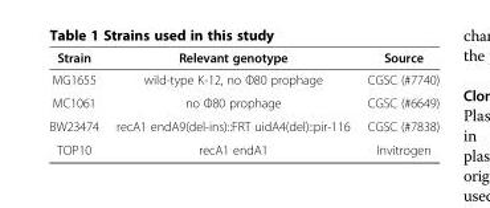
<table><thead><tr><td>Strain</td><td>Relevant genotype</td><td>Source</td></tr></thead><tbody><tr><td>MG1655</td><td>wild-type K-12, no Φ80 prophage</td><td>CGSC (#7740)</td></tr><tr><td>MC1061</td><td>no Φ80 prophage</td><td>CGSC (#6649)</td></tr><tr><td>BW23474</td><td>recA1 endA9(del-ins)::FRT uidA4(del)::pir-116</td><td>CGSC (#7838)</td></tr><tr><td>TOP10</td><td>recA1 endA1</td><td>Invitrogen</td></tr></tbody></table>